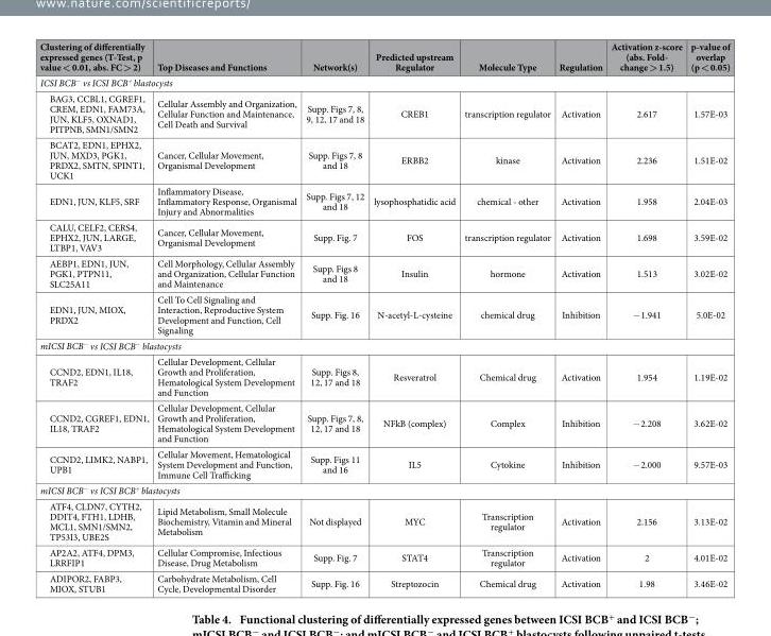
<table><thead><tr><td>Clustering of differentially expressed genes (T-Test, p value &lt; 0.01, abs. FC &gt; 2)</td><td>Top Diseases and Functions</td><td>Network(s)</td><td>Predicted upstream Regulator</td><td>Molecule Type</td><td>Regulation</td><td>Activation z-score (abs. Fold- change &gt; 1.5)</td><td>p-value of overlap (p &lt; 0.05)</td></tr></thead><tbody><tr><td colspan="8">ICSI BCB<sup>−</sup> vs ICSI BCB<sup>+</sup> blastocysts</td></tr><tr><td>BAG3, CCBL1, CGREF1, CREM, EDN1, FAM73A, JUN, KLF5, OXNAD1, PITPNB, SMN1/SMN2</td><td>Cellular Assembly and Organization, Cellular Function and Maintenance, Cell Death and Survival</td><td>Supp. Figs 7, 8, 9, 12, 17 and 18</td><td>CREB1</td><td>transcription regulator</td><td>Activation</td><td>2.617</td><td>1.57E-03</td></tr><tr><td>BCAT2, EDN1, EPHX2, JUN, MXD3, PGK1, PRDX2, SMTN, SPINT1, UCK1</td><td>Cancer, Cellular Movement, Organismal Development</td><td>Supp. Figs 7, 8 and 18</td><td>ERBB2</td><td>kinase</td><td>Activation</td><td>2.236</td><td>1.51E-02</td></tr><tr><td>EDN1, JUN, KLF5, SRF</td><td>Inflammatory Disease, Inflammatory Response, Organismal Injury and Abnormalities</td><td>Supp. Figs 7, 12 and 18</td><td>lysophosphatidic acid</td><td>chemical - other</td><td>Activation</td><td>1.958</td><td>2.04E-03</td></tr><tr><td>CALU, CELF2, CERS4, EPHX2, JUN, LARGE, LTBP1, VAV3</td><td>Cancer, Cellular Movement, Organismal Development</td><td>Supp. Fig. 7</td><td>FOS</td><td>transcription regulator</td><td>Activation</td><td>1.698</td><td>3.59E-02</td></tr><tr><td>AEBP1, EDN1, JUN, PGK1, PTPN11, SLC25A11</td><td>Cell Morphology, Cellular Assembly and Organization, Cellular Function and Maintenance</td><td>Supp. Figs 8 and 18</td><td>Insulin</td><td>hormone</td><td>Activation</td><td>1.513</td><td>3.02E-02</td></tr><tr><td>EDN1, JUN, MIOX, PRDX2</td><td>Cell To Cell Signaling and Interaction, Reproductive System Development and Function, Cell Signaling</td><td>Supp. Fig. 16</td><td>N-acetyl-L-cysteine</td><td>chemical drug</td><td>Inhibition</td><td>− 1.941</td><td>5.0E-02</td></tr><tr><td colspan="8">mICSI BCB<sup>−</sup> vs ICSI BCB<sup>−</sup> blastocysts</td></tr><tr><td>CCND2, EDN1, IL18, TRAF2</td><td>Cellular Development, Cellular Growth and Proliferation, Hematological System Development and Function</td><td>Supp. Figs 8, 12, 17 and 18</td><td>Resveratrol</td><td>Chemical drug</td><td>Activation</td><td>1.954</td><td>1.19E-02</td></tr><tr><td>CCND2, CGREF1, EDN1, IL18, TRAF2</td><td>Cellular Development, Cellular Growth and Proliferation, Hematological System Development and Function</td><td>Supp. Figs 7, 8, 12, 17 and 18</td><td>NFkB (complex)</td><td>Complex</td><td>Inhibition</td><td>− 2.208</td><td>3.62E-02</td></tr><tr><td>CCND2, LIMK2, NABP1, UPB1</td><td>Cellular Movement, Hematological System Development and Function, Immune Cell Trafficking</td><td>Supp. Figs 11 and 16</td><td>IL5</td><td>Cytokine</td><td>Inhibition</td><td>− 2.000</td><td>9.57E-03</td></tr><tr><td colspan="8">mICSI BCB<sup>−</sup> vs ICSI BCB<sup>+</sup> blastocysts</td></tr><tr><td>ATF4, CLDN7, CYTH2, DDIT4, FTH1, LDHB, MCL1, SMN1/SMN2, TP53I3, UBE2S</td><td>Lipid Metabolism, Small Molecule Biochemistry, Vitamin and Mineral Metabolism</td><td>Not displayed</td><td>MYC</td><td>Transcription regulator</td><td>Activation</td><td>2.156</td><td>3.13E-02</td></tr><tr><td>AP2A2, ATF4, DPM3, LRRFIP1</td><td>Cellular Compromise, Infectious Disease, Drug Metabolism</td><td>Supp. Fig. 7</td><td>STAT4</td><td>Transcription regulator</td><td>Activation</td><td>2</td><td>4.01E-02</td></tr><tr><td>ADIPOR2, FABP3, MIOX, STUB1</td><td>Carbohydrate Metabolism, Cell Cycle, Developmental Disorder</td><td>Supp. Fig. 16</td><td>Streptozocin</td><td>Chemical drug</td><td>Activation</td><td>1.98</td><td>3.46E-02</td></tr></tbody></table>